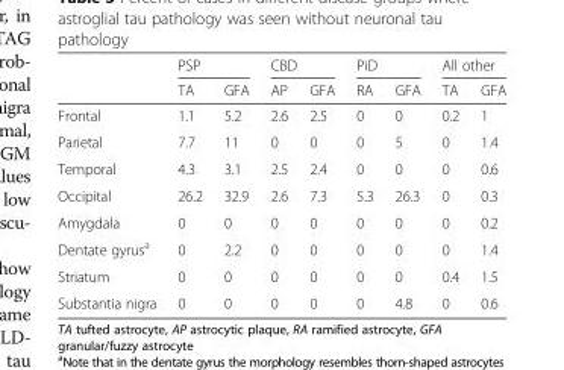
<table><thead><tr><td rowspan="2"></td><td colspan="2">PSP</td><td colspan="2">CBD</td><td colspan="2">PiD</td><td colspan="2">All other</td></tr><tr><td>TA</td><td>GFA</td><td>AP</td><td>GFA</td><td>RA</td><td>GFA</td><td>TA</td><td>GFA</td></tr></thead><tbody><tr><td>Frontal</td><td>1.1</td><td>5.2</td><td>2.6</td><td>2.5</td><td>0</td><td>0</td><td>0.2</td><td>1</td></tr><tr><td>Parietal</td><td>7.7</td><td>11</td><td>0</td><td>0</td><td>0</td><td>5</td><td>0</td><td>1.4</td></tr><tr><td>Temporal</td><td>4.3</td><td>3.1</td><td>2.5</td><td>2.4</td><td>0</td><td>0</td><td>0</td><td>0.6</td></tr><tr><td>Occipital</td><td>26.2</td><td>32.9</td><td>2.6</td><td>7.3</td><td>5.3</td><td>26.3</td><td>0</td><td>0.3</td></tr><tr><td>Amygdala</td><td>0</td><td>0</td><td>0</td><td>0</td><td>0</td><td>0</td><td>0</td><td>0.2</td></tr><tr><td>Dentate gyrus<sup>a</sup></td><td>0</td><td>2.2</td><td>0</td><td>0</td><td>0</td><td>0</td><td>0</td><td>1.4</td></tr><tr><td>Striatum</td><td>0</td><td>0</td><td>0</td><td>0</td><td>0</td><td>0</td><td>0.4</td><td>1.5</td></tr><tr><td>Substantia nigra</td><td>0</td><td>0</td><td>0</td><td>0</td><td>0</td><td>4.8</td><td>0</td><td>0.6</td></tr></tbody></table>